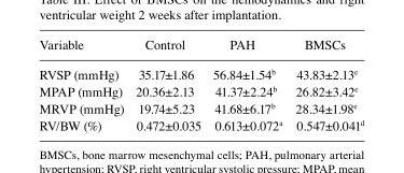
<table><thead><tr><td>Variable</td><td>Control</td><td>PAH</td><td>BMSCs</td></tr></thead><tbody><tr><td>RVSP (mmHg)</td><td>35.17±1.86</td><td>56.84±1.54<sup>b</sup></td><td>43.83±2.13<sup>e</sup></td></tr><tr><td>MPAP (mmHg)</td><td>20.36±2.13</td><td>41.37±2.24<sup>b</sup></td><td>26.82±3.42<sup>e</sup></td></tr><tr><td>MRVP (mmHg)</td><td>19.74±5.23</td><td>41.68±6.17<sup>b</sup></td><td>28.34±1.98<sup>e</sup></td></tr><tr><td>RV/BW (%)</td><td>0.472±0.035</td><td>0.613±0.072<sup>a</sup></td><td>0.547±0.041<sup>d</sup></td></tr></tbody></table>